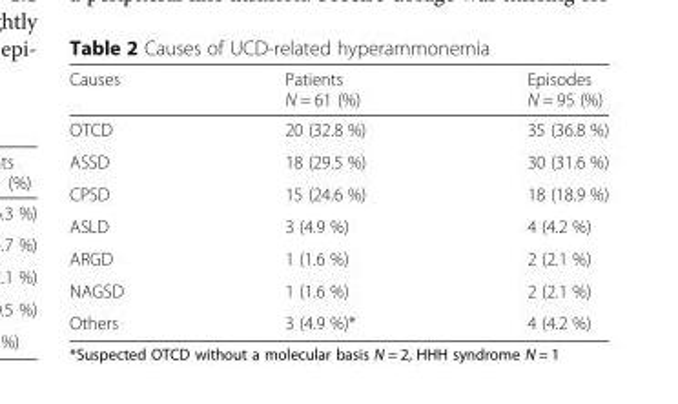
<table><thead><tr><td>Causes</td><td>Patients N = 61 (%)</td><td>Episodes N = 95 (%)</td></tr></thead><tbody><tr><td>OTCD</td><td>20 (32.8 %)</td><td>35 (36.8 %)</td></tr><tr><td>ASSD</td><td>18 (29.5 %)</td><td>30 (31.6 %)</td></tr><tr><td>CPSD</td><td>15 (24.6 %)</td><td>18 (18.9 %)</td></tr><tr><td>ASLD</td><td>3 (4.9 %)</td><td>4 (4.2 %)</td></tr><tr><td>ARGD</td><td>1 (1.6 %)</td><td>2 (2.1 %)</td></tr><tr><td>NAGSD</td><td>1 (1.6 %)</td><td>2 (2.1 %)</td></tr><tr><td>Others</td><td>3 (4.9 %)*</td><td>4 (4.2 %)</td></tr></tbody></table>